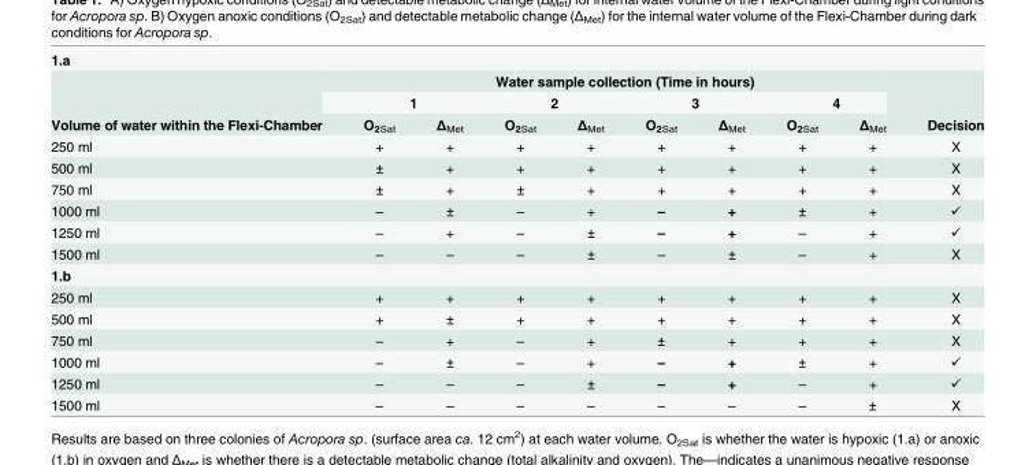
<table><tbody><tr><td colspan="10">1.a</td></tr><tr><td rowspan="2"></td><td colspan="8">Water sample collection (Time in hours)</td><td rowspan="2"></td></tr><tr><td colspan="2">1</td><td colspan="2">2</td><td colspan="2">3</td><td colspan="2">4</td></tr><tr><td>Volume of water within the Flexi-Chamber</td><td>O<sub>2Sat</sub></td><td>Δ<sub>Met</sub></td><td>O<sub>2Sat</sub></td><td>Δ<sub>Met</sub></td><td>O<sub>2Sat</sub></td><td>Δ<sub>Met</sub></td><td>O<sub>2Sat</sub></td><td>Δ<sub>Met</sub></td><td>Decision</td></tr><tr><td>250 ml</td><td>+</td><td>+</td><td>+</td><td>+</td><td>+</td><td>+</td><td>+</td><td>+</td><td>X</td></tr><tr><td>500 ml</td><td>±</td><td>+</td><td>+</td><td>+</td><td>+</td><td>+</td><td>+</td><td>+</td><td>X</td></tr><tr><td>750 ml</td><td>±</td><td>+</td><td>±</td><td>+</td><td>+</td><td>+</td><td>+</td><td>+</td><td>X</td></tr><tr><td>1000 ml</td><td>–</td><td>±</td><td>–</td><td>+</td><td>–</td><td>+</td><td>±</td><td>+</td><td>✓</td></tr><tr><td>1250 ml</td><td>–</td><td>+</td><td>–</td><td>±</td><td>–</td><td>+</td><td>–</td><td>+</td><td>✓</td></tr><tr><td>1500 ml</td><td>–</td><td>–</td><td>–</td><td>±</td><td>–</td><td>±</td><td>–</td><td>+</td><td>X</td></tr><tr><td colspan="10">1.b</td></tr><tr><td>250 ml</td><td>+</td><td>+</td><td>+</td><td>+</td><td>+</td><td>+</td><td>+</td><td>+</td><td>X</td></tr><tr><td>500 ml</td><td>+</td><td>±</td><td>+</td><td>+</td><td>+</td><td>+</td><td>+</td><td>+</td><td>X</td></tr><tr><td>750 ml</td><td>–</td><td>+</td><td>–</td><td>+</td><td>±</td><td>+</td><td>+</td><td>+</td><td>X</td></tr><tr><td>1000 ml</td><td>–</td><td>±</td><td>–</td><td>+</td><td>–</td><td>+</td><td>±</td><td>+</td><td>✓</td></tr><tr><td>1250 ml</td><td>–</td><td>–</td><td>–</td><td>±</td><td>–</td><td>+</td><td>–</td><td>+</td><td>✓</td></tr><tr><td>1500 ml</td><td>–</td><td>–</td><td>–</td><td>–</td><td>–</td><td>–</td><td>–</td><td>±</td><td>X</td></tr></tbody></table>